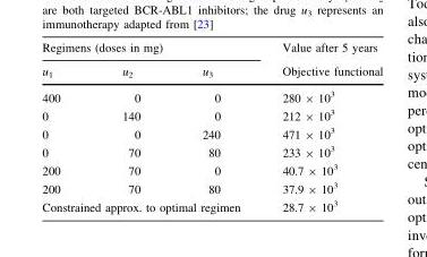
<table><thead><tr><td colspan="3">Regimens (doses in mg)</td><td rowspan="2">Value after 5 years Objective functional</td></tr><tr><td>u<sub>1</sub></td><td>u<sub>2</sub></td><td>u<sub>3</sub></td></tr></thead><tbody><tr><td>400</td><td>0</td><td>0</td><td>280 × 10<sup>3</sup></td></tr><tr><td>0</td><td>140</td><td>0</td><td>212 × 10<sup>3</sup></td></tr><tr><td>0</td><td>0</td><td>240</td><td>471 × 10<sup>3</sup></td></tr><tr><td>0</td><td>70</td><td>80</td><td>233 × 10<sup>3</sup></td></tr><tr><td>200</td><td>70</td><td>0</td><td>40.7 × 10<sup>3</sup></td></tr><tr><td>200</td><td>70</td><td>80</td><td>37.9 × 10<sup>3</sup></td></tr><tr><td colspan="3">Constrained approx. to optimal regimen</td><td>28.7 × 10<sup>3</sup></td></tr></tbody></table>